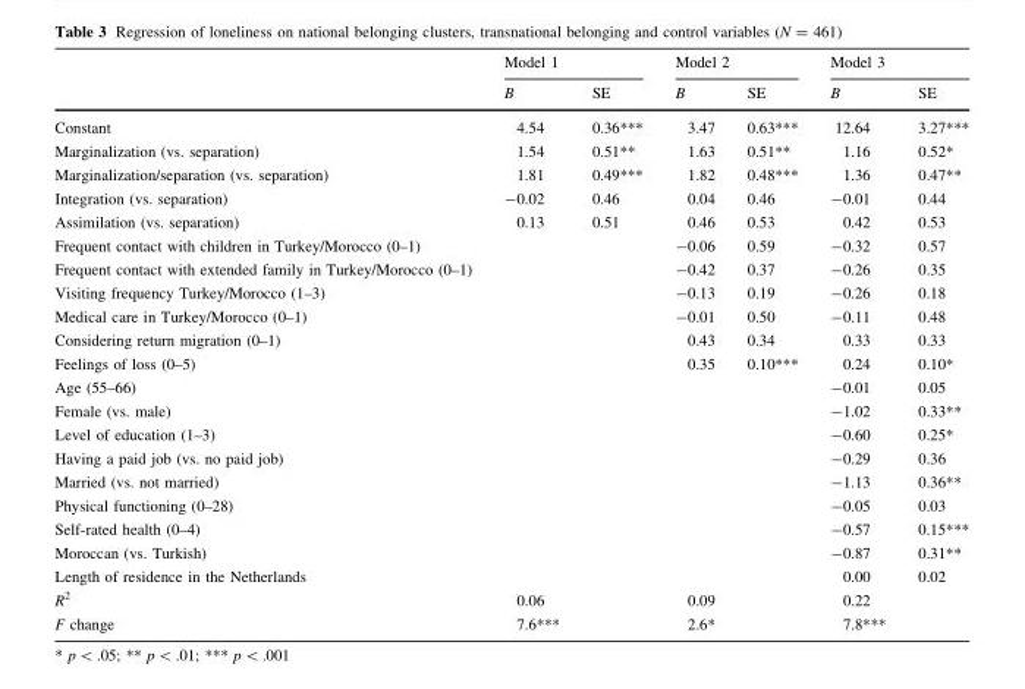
<table><thead><tr><td rowspan="2"></td><td colspan="2">Model 1</td><td colspan="2">Model 2</td><td colspan="2">Model 3</td></tr><tr><td>B</td><td>SE</td><td>B</td><td>SE</td><td>B</td><td>SE</td></tr></thead><tbody><tr><td>Constant</td><td>4.54</td><td>0.36***</td><td>3.47</td><td>0.63***</td><td>12.64</td><td>3.27***</td></tr><tr><td>Marginalization (vs. separation)</td><td>1.54</td><td>0.51**</td><td>1.63</td><td>0.51**</td><td>1.16</td><td>0.52*</td></tr><tr><td>Marginalization/separation (vs. separation)</td><td>1.81</td><td>0.49***</td><td>1.82</td><td>0.48***</td><td>1.36</td><td>0.47**</td></tr><tr><td>Integration (vs. separation)</td><td>-0.02</td><td>0.46</td><td>0.04</td><td>0.46</td><td>-0.01</td><td>0.44</td></tr><tr><td>Assimilation (vs. separation)</td><td>0.13</td><td>0.51</td><td>0.46</td><td>0.53</td><td>0.42</td><td>0.53</td></tr><tr><td>Frequent contact with children in Turkey/Morocco (0–1)</td><td></td><td></td><td>-0.06</td><td>0.59</td><td>-0.32</td><td>0.57</td></tr><tr><td>Frequent contact with extended family in Turkey/Morocco (0–1)</td><td></td><td></td><td>-0.42</td><td>0.37</td><td>-0.26</td><td>0.35</td></tr><tr><td>Visiting frequency Turkey/Morocco (1–3)</td><td></td><td></td><td>-0.13</td><td>0.19</td><td>-0.26</td><td>0.18</td></tr><tr><td>Medical care in Turkey/Morocco (0–1)</td><td></td><td></td><td>-0.01</td><td>0.50</td><td>-0.11</td><td>0.48</td></tr><tr><td>Considering return migration (0–1)</td><td></td><td></td><td>0.43</td><td>0.34</td><td>0.33</td><td>0.33</td></tr><tr><td>Feelings of loss (0–5)</td><td></td><td></td><td>0.35</td><td>0.10***</td><td>0.24</td><td>0.10*</td></tr><tr><td>Age (55–66)</td><td></td><td></td><td></td><td></td><td>-0.01</td><td>0.05</td></tr><tr><td>Female (vs. male)</td><td></td><td></td><td></td><td></td><td>-1.02</td><td>0.33**</td></tr><tr><td>Level of education (1–3)</td><td></td><td></td><td></td><td></td><td>-0.60</td><td>0.25*</td></tr><tr><td>Having a paid job (vs. no paid job)</td><td></td><td></td><td></td><td></td><td>-0.29</td><td>0.36</td></tr><tr><td>Married (vs. not married)</td><td></td><td></td><td></td><td></td><td>-1.13</td><td>0.36**</td></tr><tr><td>Physical functioning (0–28)</td><td></td><td></td><td></td><td></td><td>-0.05</td><td>0.03</td></tr><tr><td>Self-rated health (0–4)</td><td></td><td></td><td></td><td></td><td>-0.57</td><td>0.15***</td></tr><tr><td>Moroccan (vs. Turkish)</td><td></td><td></td><td></td><td></td><td>-0.87</td><td>0.31**</td></tr><tr><td>Length of residence in the Netherlands</td><td></td><td></td><td></td><td></td><td>0.00</td><td>0.02</td></tr><tr><td>R<sup>2</sup></td><td>0.06</td><td></td><td>0.09</td><td></td><td>0.22</td><td></td></tr><tr><td>F change</td><td>7.6***</td><td></td><td>2.6*</td><td></td><td>7.8***</td><td></td></tr></tbody></table>